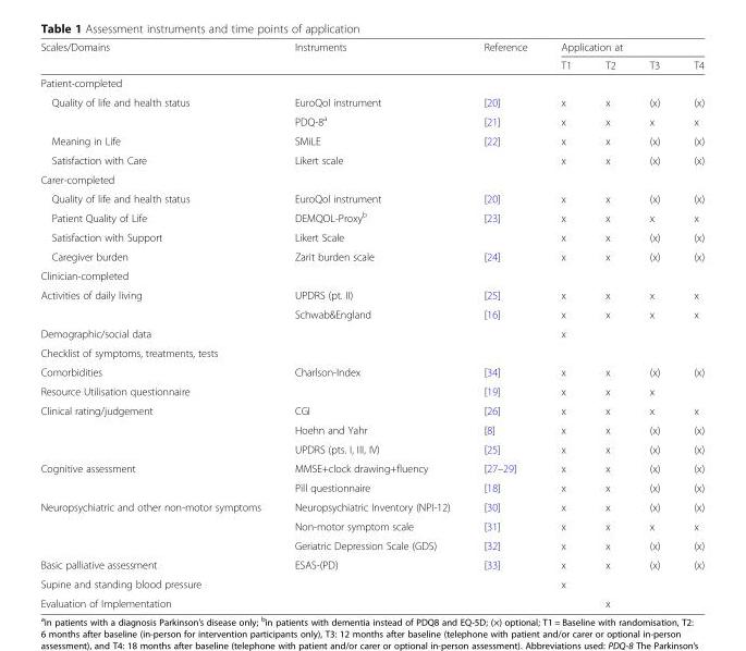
<table><thead><tr><td rowspan="2">Scales/Domains</td><td rowspan="2">Instruments</td><td rowspan="2">Reference</td><td colspan="4">Application at</td></tr><tr><td>T1</td><td>T2</td><td>T3</td><td>T4</td></tr></thead><tbody><tr><td colspan="7">Patient-completed</td></tr><tr><td rowspan="2">Quality of life and health status</td><td>EuroQol instrument</td><td>[20]</td><td>x</td><td>x</td><td>(x)</td><td>(x)</td></tr><tr><td>PDQ-8<sup>a</sup></td><td>[21]</td><td>x</td><td>x</td><td>x</td><td>x</td></tr><tr><td>Meaning in Life</td><td>SMiLE</td><td>[22]</td><td>x</td><td>x</td><td>(x)</td><td>(x)</td></tr><tr><td>Satisfaction with Care</td><td>Likert scale</td><td></td><td>x</td><td>x</td><td>(x)</td><td>(x)</td></tr><tr><td colspan="7">Carer-completed</td></tr><tr><td>Quality of life and health status</td><td>EuroQol instrument</td><td>[20]</td><td>x</td><td>x</td><td>(x)</td><td>(x)</td></tr><tr><td>Patient Quality of Life</td><td>DEMQOL-Proxy<sup>b</sup></td><td>[23]</td><td>x</td><td>x</td><td>x</td><td>x</td></tr><tr><td>Satisfaction with Support</td><td>Likert Scale</td><td></td><td>x</td><td>x</td><td>(x)</td><td>(x)</td></tr><tr><td>Caregiver burden</td><td>Zarit burden scale</td><td>[24]</td><td>x</td><td>x</td><td>(x)</td><td>(x)</td></tr><tr><td colspan="7">Clinician-completed</td></tr><tr><td rowspan="2">Activities of daily living</td><td>UPDRS (pt. II)</td><td>[25]</td><td>x</td><td>x</td><td>x</td><td>x</td></tr><tr><td>Schwab&amp;England</td><td>[16]</td><td>x</td><td>x</td><td>x</td><td>x</td></tr><tr><td colspan="2">Demographic/social data</td><td rowspan="2"></td><td rowspan="2">x</td><td rowspan="2"></td><td rowspan="2"></td><td rowspan="2"></td></tr><tr><td colspan="2">Checklist of symptoms, treatments, tests</td></tr><tr><td>Comorbidities</td><td>Charlson-Index</td><td>[34]</td><td>x</td><td>x</td><td>(x)</td><td>(x)</td></tr><tr><td colspan="2">Resource Utilisation questionnaire</td><td>[19]</td><td>x</td><td>x</td><td>x</td><td></td></tr><tr><td rowspan="3">Clinical rating/judgement</td><td>CGI</td><td>[26]</td><td>x</td><td>x</td><td>x</td><td>x</td></tr><tr><td>Hoehn and Yahr</td><td>[8]</td><td>x</td><td>x</td><td>(x)</td><td>(x)</td></tr><tr><td>UPDRS (pts. I, III, IV)</td><td>[25]</td><td>x</td><td>x</td><td>(x)</td><td>(x)</td></tr><tr><td rowspan="2">Cognitive assessment</td><td>MMSE+clock drawing+fluency</td><td>[27–29]</td><td>x</td><td>x</td><td>(x)</td><td>(x)</td></tr><tr><td>Pill questionnaire</td><td>[18]</td><td>x</td><td>x</td><td>(x)</td><td>(x)</td></tr><tr><td rowspan="3">Neuropsychiatric and other non-motor symptoms</td><td>Neuropsychiatric Inventory (NPI-12)</td><td>[30]</td><td>x</td><td>x</td><td>(x)</td><td>(x)</td></tr><tr><td>Non-motor symptom scale</td><td>[31]</td><td>x</td><td>x</td><td>x</td><td>x</td></tr><tr><td>Geriatric Depression Scale (GDS)</td><td>[32]</td><td>x</td><td>x</td><td>(x)</td><td>(x)</td></tr><tr><td>Basic palliative assessment</td><td>ESAS-(PD)</td><td>[33]</td><td>x</td><td>x</td><td>(x)</td><td>(x)</td></tr><tr><td>Supine and standing blood pressure</td><td></td><td></td><td>x</td><td></td><td></td><td></td></tr><tr><td>Evaluation of Implementation</td><td></td><td></td><td></td><td>x</td><td></td><td></td></tr></tbody></table>